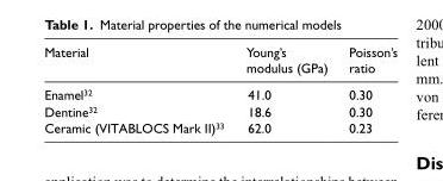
<table><thead><tr><td>Material</td><td>Young’s modulus (GPa)</td><td>Poisson’s ratio</td></tr></thead><tbody><tr><td>Enamel<sup>32</sup></td><td>41.0</td><td>0.30</td></tr><tr><td>Dentine<sup>32</sup></td><td>18.6</td><td>0.30</td></tr><tr><td>Ceramic (VITABLOCS Mark II)<sup>33</sup></td><td>62.0</td><td>0.23</td></tr></tbody></table>